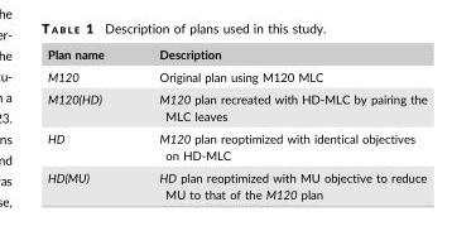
<table><thead><tr><td>Plan name</td><td>Description</td></tr></thead><tbody><tr><td>M120</td><td>Original plan using M120 MLC</td></tr><tr><td>M120(HD)</td><td>M120 plan recreated with HD-MLC by pairing the MLC leaves</td></tr><tr><td>HD</td><td>M120 plan reoptimized with identical objectives on HD-MLC</td></tr><tr><td>HD(MU)</td><td>HD plan reoptimized with MU objective to reduce MU to that of the M120 plan</td></tr></tbody></table>